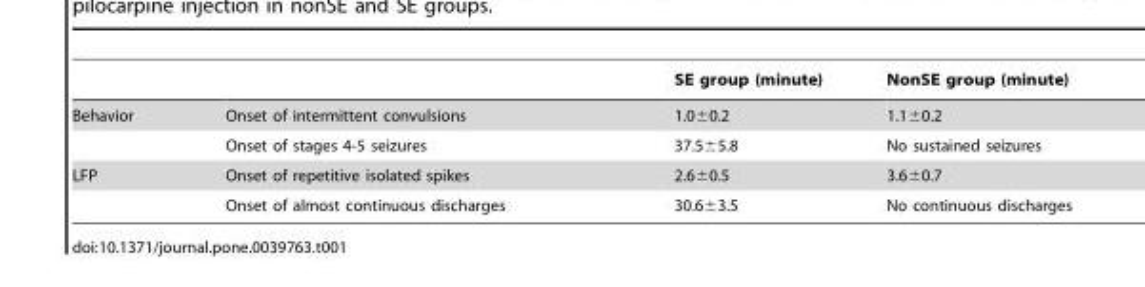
<table><thead><tr><td></td><td></td><td>SE group (minute)</td><td>NonSE group (minute)</td></tr></thead><tbody><tr><td rowspan="2">Behavior</td><td>Onset of intermittent convulsions</td><td>1.0±0.2</td><td>1.1±0.2</td></tr><tr><td>Onset of stages 4-5 seizures</td><td>37.5±5.8</td><td>No sustained seizures</td></tr><tr><td rowspan="2">LFP</td><td>Onset of repetitive isolated spikes</td><td>2.6±0.5</td><td>3.6±0.7</td></tr><tr><td>Onset of almost continuous discharges</td><td>30.6±3.5</td><td>No continuous discharges</td></tr></tbody></table>